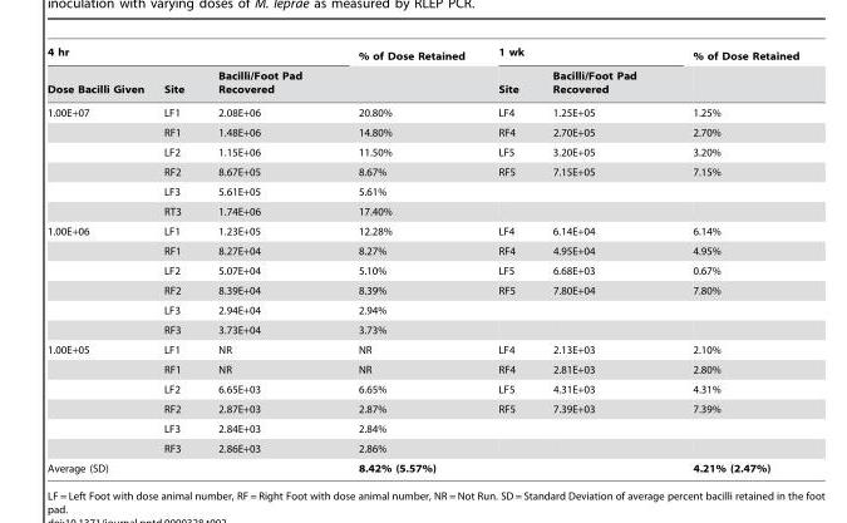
<table><thead><tr><td colspan="3">4 hr</td><td rowspan="2">% of Dose Retained</td><td colspan="2">1 wk</td><td rowspan="2">% of Dose Retained</td></tr><tr><td>Dose Bacilli Given</td><td>Site</td><td>Bacilli/Foot Pad Recovered</td><td>Site</td><td>Bacilli/Foot Pad Recovered</td></tr></thead><tbody><tr><td rowspan="6">1.00E+07</td><td>LF1</td><td>2.08E+06</td><td>20.80%</td><td>LF4</td><td>1.25E+05</td><td>1.25%</td></tr><tr><td>RF1</td><td>1.48E+06</td><td>14.80%</td><td>RF4</td><td>2.70E+05</td><td>2.70%</td></tr><tr><td>LF2</td><td>1.15E+06</td><td>11.50%</td><td>LF5</td><td>3.20E+05</td><td>3.20%</td></tr><tr><td>RF2</td><td>8.67E+05</td><td>8.67%</td><td>RF5</td><td>7.15E+05</td><td>7.15%</td></tr><tr><td>LF3</td><td>5.61E+05</td><td>5.61%</td><td></td><td></td><td></td></tr><tr><td>RT3</td><td>1.74E+06</td><td>17.40%</td><td></td><td></td><td></td></tr><tr><td rowspan="6">1.00E+06</td><td>LF1</td><td>1.23E+05</td><td>12.28%</td><td>LF4</td><td>6.14E+04</td><td>6.14%</td></tr><tr><td>RF1</td><td>8.27E+04</td><td>8.27%</td><td>RF4</td><td>4.95E+04</td><td>4.95%</td></tr><tr><td>LF2</td><td>5.07E+04</td><td>5.10%</td><td>LF5</td><td>6.68E+03</td><td>0.67%</td></tr><tr><td>RF2</td><td>8.39E+04</td><td>8.39%</td><td>RF5</td><td>7.80E+04</td><td>7.80%</td></tr><tr><td>LF3</td><td>2.94E+04</td><td>2.94%</td><td></td><td></td><td></td></tr><tr><td>RF3</td><td>3.73E+04</td><td>3.73%</td><td></td><td></td><td></td></tr><tr><td rowspan="6">1.00E+05</td><td>LF1</td><td>NR</td><td>NR</td><td>LF4</td><td>2.13E+03</td><td>2.10%</td></tr><tr><td>RF1</td><td>NR</td><td>NR</td><td>RF4</td><td>2.81E+03</td><td>2.80%</td></tr><tr><td>LF2</td><td>6.65E+03</td><td>6.65%</td><td>LF5</td><td>4.31E+03</td><td>4.31%</td></tr><tr><td>RF2</td><td>2.87E+03</td><td>2.87%</td><td>RF5</td><td>7.39E+03</td><td>7.39%</td></tr><tr><td>LF3</td><td>2.84E+03</td><td>2.84%</td><td></td><td></td><td></td></tr><tr><td>RF3</td><td>2.86E+03</td><td>2.86%</td><td></td><td></td><td></td></tr><tr><td>Average (SD)</td><td></td><td></td><td>8.42% (5.57%)</td><td></td><td></td><td>4.21% (2.47%)</td></tr></tbody></table>